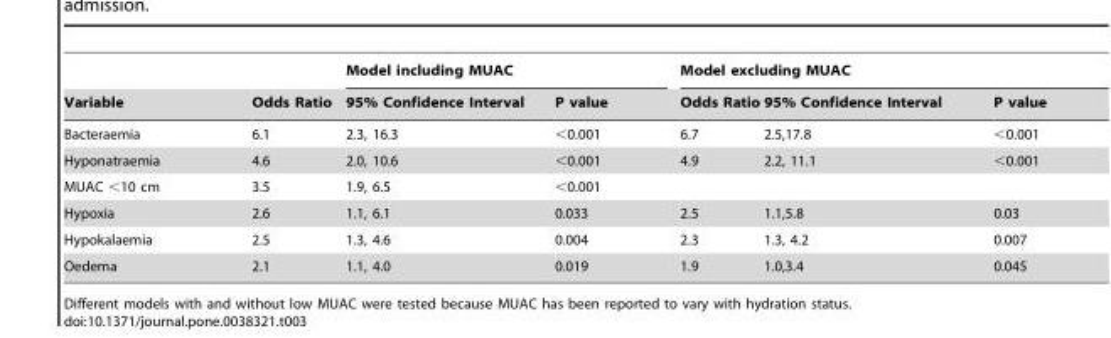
<table><thead><tr><td rowspan="2">Variable</td><td rowspan="2">Odds Ratio</td><td colspan="2">Model including MUAC</td><td colspan="3">Model excluding MUAC</td></tr><tr><td>95% Confidence Interval</td><td>P value</td><td>Odds Ratio</td><td>95% Confidence Interval</td><td>P value</td></tr></thead><tbody><tr><td>Bacteraemia</td><td>6.1</td><td>2.3, 16.3</td><td>&lt;0.001</td><td>6.7</td><td>2.5,17.8</td><td>&lt;0.001</td></tr><tr><td>Hyponatraemia</td><td>4.6</td><td>2.0, 10.6</td><td>&lt;0.001</td><td>4.9</td><td>2.2, 11.1</td><td>&lt;0.001</td></tr><tr><td>MUAC &lt;10 cm</td><td>3.5</td><td>1.9, 6.5</td><td colspan="4">&lt;0.001</td></tr><tr><td>Hypoxia</td><td>2.6</td><td>1.1, 6.1</td><td>0.033</td><td>2.5</td><td>1.1,5.8</td><td>0.03</td></tr><tr><td>Hypokalaemia</td><td>2.5</td><td>1.3, 4.6</td><td>0.004</td><td>2.3</td><td>1.3, 4.2</td><td>0.007</td></tr><tr><td>Oedema</td><td>2.1</td><td>1.1, 4.0</td><td>0.019</td><td>1.9</td><td>1.0,3.4</td><td>0.045</td></tr></tbody></table>